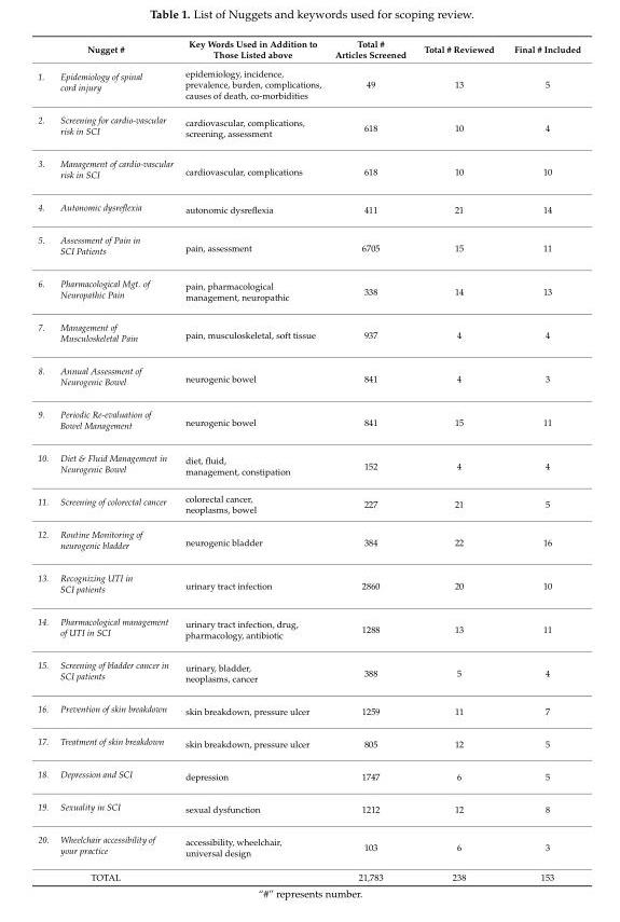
<table><thead><tr><td>Nugget #</td><td>Key Words Used in Addition to Those Listed above</td><td>Total # Articles Screened</td><td>Total # Reviewed</td><td>Final # Included</td></tr></thead><tbody><tr><td>1. Epidemiology of spinal cord injury</td><td>epidemiology, incidence, prevalence, burden, complications, causes of death, co-morbidities</td><td>49</td><td>13</td><td>5</td></tr><tr><td>2. Screening for cardio-vascular risk in SCI</td><td>cardiovascular, complications, screening, assessment</td><td>618</td><td>10</td><td>4</td></tr><tr><td>3. Management of cardio-vascular risk in SCI</td><td>cardiovascular, complications</td><td>618</td><td>10</td><td>10</td></tr><tr><td>4. Autonomic dysreflexia</td><td>autonomic dysreflexia</td><td>411</td><td>21</td><td>14</td></tr><tr><td>5. Assessment of Pain in SCI Patients</td><td>pain, assessment</td><td>6705</td><td>15</td><td>11</td></tr><tr><td>6. Pharmacological Mgt. of Neuropathic Pain</td><td>pain, pharmacological management, neuropathic</td><td>338</td><td>14</td><td>13</td></tr><tr><td>7. Management of Musculoskeletal Pain</td><td>pain, musculoskeletal, soft tissue</td><td>937</td><td>4</td><td>4</td></tr><tr><td>8. Annual Assessment of Neurogenic Bowel</td><td>neurogenic bowel</td><td>841</td><td>4</td><td>3</td></tr><tr><td>9. Periodic Re-evaluation of Bowel Management</td><td>neurogenic bowel</td><td>841</td><td>15</td><td>11</td></tr><tr><td>10. Diet &amp; Fluid Management in Neurogenic Bowel</td><td>diet, fluid, management, constipation</td><td>152</td><td>4</td><td>4</td></tr><tr><td>11. Screening of colorectal cancer</td><td>colorectal cancer, neoplasms, bowel</td><td>227</td><td>21</td><td>5</td></tr><tr><td>12. Routine Monitoring of neurogenic bladder</td><td>neurogenic bladder</td><td>384</td><td>22</td><td>16</td></tr><tr><td>13. Recognizing UTI in SCI patients</td><td>urinary tract infection</td><td>2860</td><td>20</td><td>10</td></tr><tr><td>14. Pharmacological management of UTI in SCI</td><td>urinary tract infection, drug, pharmacology, antibiotic</td><td>1288</td><td>13</td><td>11</td></tr><tr><td>15. Screening of bladder cancer in SCI patients</td><td>urinary, bladder, neoplasms, cancer</td><td>388</td><td>5</td><td>4</td></tr><tr><td>16. Prevention of skin breakdown</td><td>skin breakdown, pressure ulcer</td><td>1259</td><td>11</td><td>7</td></tr><tr><td>17. Treatment of skin breakdown</td><td>skin breakdown, pressure ulcer</td><td>805</td><td>12</td><td>5</td></tr><tr><td>18. Depression and SCI</td><td>depression</td><td>1747</td><td>6</td><td>5</td></tr><tr><td>19. Sexuality in SCI</td><td>sexual dysfunction</td><td>1212</td><td>12</td><td>8</td></tr><tr><td>20. Wheelchair accessibility of your practice</td><td>accessibility, wheelchair, universal design</td><td>103</td><td>6</td><td>3</td></tr><tr><td>TOTAL</td><td></td><td>21,783</td><td>238</td><td>153</td></tr></tbody></table>